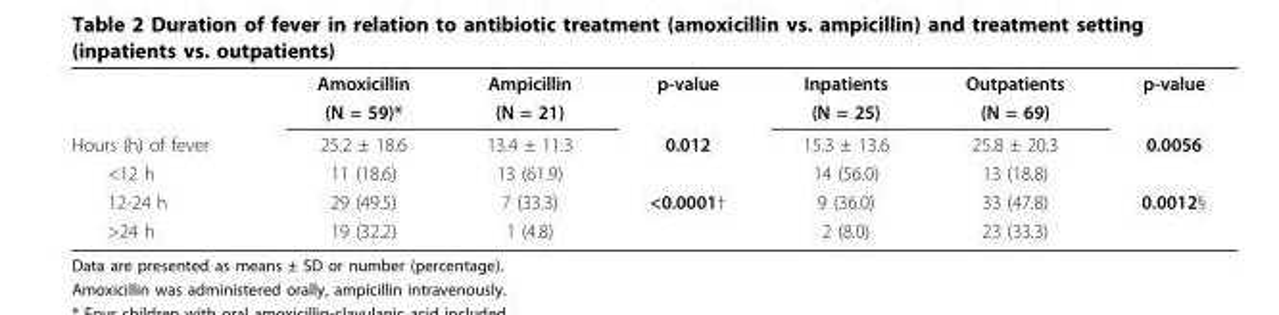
<table><thead><tr><td></td><td>Amoxicillin</td><td>Ampicillin</td><td>p-value</td><td>Inpatients</td><td>Outpatients</td><td>p-value</td></tr></thead><tbody><tr><td></td><td>(N = 59)*</td><td>(N = 21)</td><td></td><td>(N = 25)</td><td>(N = 69)</td><td></td></tr><tr><td>Hours (h) of fever</td><td>25.2 ± 18.6</td><td>13.4 ± 11.3</td><td>0.012</td><td>15.3 ± 13.6</td><td>25.8 ± 20.3</td><td>0.0056</td></tr><tr><td>&lt;12 h</td><td>11 (18.6)</td><td>13 (61.9)</td><td></td><td>14 (56.0)</td><td>13 (18.8)</td><td></td></tr><tr><td>12-24 h</td><td>29 (49.5)</td><td>7 (33.3)</td><td>&lt;0.0001†</td><td>9 (36.0)</td><td>33 (47.8)</td><td>0.0012§</td></tr><tr><td>&gt;24 h</td><td>19 (32.2)</td><td>1 (4.8)</td><td></td><td>2 (8.0)</td><td>23 (33.3)</td><td></td></tr></tbody></table>